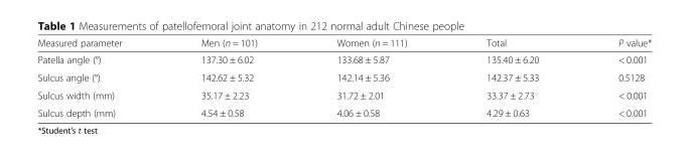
<table><thead><tr><td>Measured parameter</td><td>Men (n = 101)</td><td>Women (n = 111)</td><td>Total</td><td>P value*</td></tr></thead><tbody><tr><td>Patella angle (°)</td><td>137.30 ± 6.02</td><td>133.68 ± 5.87</td><td>135.40 ± 6.20</td><td>&lt; 0.001</td></tr><tr><td>Sulcus angle (°)</td><td>142.62 ± 5.32</td><td>142.14 ± 5.36</td><td>142.37 ± 5.33</td><td>0.5128</td></tr><tr><td>Sulcus width (mm)</td><td>35.17 ± 2.23</td><td>31.72 ± 2.01</td><td>33.37 ± 2.73</td><td>&lt; 0.001</td></tr><tr><td>Sulcus depth (mm)</td><td>4.54 ± 0.58</td><td>4.06 ± 0.58</td><td>4.29 ± 0.63</td><td>&lt; 0.001</td></tr></tbody></table>